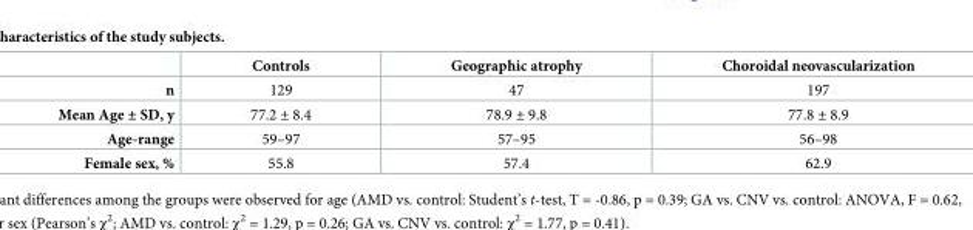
<table><thead><tr><td></td><td>Controls</td><td>Geographic atrophy</td><td>Choroidal neovascularization</td></tr></thead><tbody><tr><td>n</td><td>129</td><td>47</td><td>197</td></tr><tr><td>Mean Age ± SD, y</td><td>77.2 ± 8.4</td><td>78.9 ± 9.8</td><td>77.8 ± 8.9</td></tr><tr><td>Age-range</td><td>59–97</td><td>57–95</td><td>56–98</td></tr><tr><td>Female sex, %</td><td>55.8</td><td>57.4</td><td>62.9</td></tr></tbody></table>